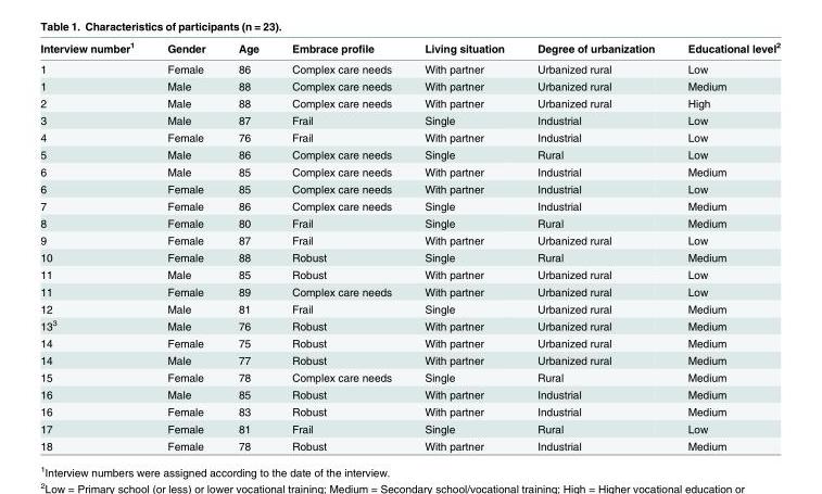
<table><thead><tr><td>Interview number<sup>1</sup></td><td>Gender</td><td>Age</td><td>Embrace profile</td><td>Living situation</td><td>Degree of urbanization</td><td>Educational level<sup>2</sup></td></tr></thead><tbody><tr><td>1</td><td>Female</td><td>86</td><td>Complex care needs</td><td>With partner</td><td>Urbanized rural</td><td>Low</td></tr><tr><td>1</td><td>Male</td><td>88</td><td>Complex care needs</td><td>With partner</td><td>Urbanized rural</td><td>Medium</td></tr><tr><td>2</td><td>Male</td><td>88</td><td>Complex care needs</td><td>With partner</td><td>Urbanized rural</td><td>High</td></tr><tr><td>3</td><td>Male</td><td>87</td><td>Frail</td><td>Single</td><td>Industrial</td><td>Low</td></tr><tr><td>4</td><td>Female</td><td>76</td><td>Frail</td><td>With partner</td><td>Industrial</td><td>Low</td></tr><tr><td>5</td><td>Male</td><td>86</td><td>Complex care needs</td><td>Single</td><td>Rural</td><td>Low</td></tr><tr><td>6</td><td>Male</td><td>85</td><td>Complex care needs</td><td>With partner</td><td>Industrial</td><td>Medium</td></tr><tr><td>6</td><td>Female</td><td>85</td><td>Complex care needs</td><td>With partner</td><td>Industrial</td><td>Low</td></tr><tr><td>7</td><td>Female</td><td>86</td><td>Complex care needs</td><td>Single</td><td>Industrial</td><td>Medium</td></tr><tr><td>8</td><td>Female</td><td>80</td><td>Frail</td><td>Single</td><td>Rural</td><td>Medium</td></tr><tr><td>9</td><td>Female</td><td>87</td><td>Frail</td><td>With partner</td><td>Urbanized rural</td><td>Low</td></tr><tr><td>10</td><td>Female</td><td>88</td><td>Robust</td><td>Single</td><td>Rural</td><td>Medium</td></tr><tr><td>11</td><td>Male</td><td>85</td><td>Robust</td><td>With partner</td><td>Urbanized rural</td><td>Low</td></tr><tr><td>11</td><td>Female</td><td>89</td><td>Complex care needs</td><td>With partner</td><td>Urbanized rural</td><td>Low</td></tr><tr><td>12</td><td>Male</td><td>81</td><td>Frail</td><td>Single</td><td>Urbanized rural</td><td>Medium</td></tr><tr><td>13<sup>3</sup></td><td>Male</td><td>76</td><td>Robust</td><td>With partner</td><td>Urbanized rural</td><td>Medium</td></tr><tr><td>14</td><td>Female</td><td>75</td><td>Robust</td><td>With partner</td><td>Urbanized rural</td><td>Medium</td></tr><tr><td>14</td><td>Male</td><td>77</td><td>Robust</td><td>With partner</td><td>Urbanized rural</td><td>Medium</td></tr><tr><td>15</td><td>Female</td><td>78</td><td>Complex care needs</td><td>Single</td><td>Rural</td><td>Medium</td></tr><tr><td>16</td><td>Male</td><td>85</td><td>Robust</td><td>With partner</td><td>Industrial</td><td>Medium</td></tr><tr><td>16</td><td>Female</td><td>83</td><td>Robust</td><td>With partner</td><td>Industrial</td><td>Medium</td></tr><tr><td>17</td><td>Female</td><td>81</td><td>Frail</td><td>Single</td><td>Rural</td><td>Low</td></tr><tr><td>18</td><td>Female</td><td>78</td><td>Robust</td><td>With partner</td><td>Industrial</td><td>Medium</td></tr></tbody></table>